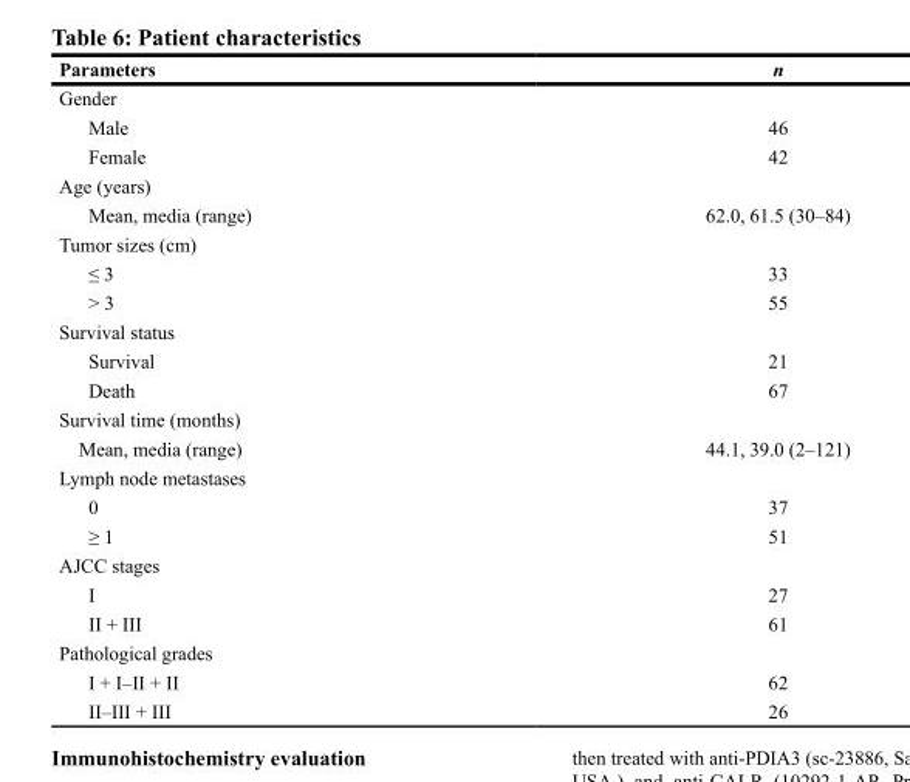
<table><thead><tr><td>Parameters</td><td>n</td></tr></thead><tbody><tr><td colspan="2">Gender</td></tr><tr><td>Male</td><td>46</td></tr><tr><td>Female</td><td>42</td></tr><tr><td colspan="2">Age (years)</td></tr><tr><td>Mean, media (range)</td><td>62.0, 61.5 (30–84)</td></tr><tr><td colspan="2">Tumor sizes (cm)</td></tr><tr><td>≤ 3</td><td>33</td></tr><tr><td>&gt; 3</td><td>55</td></tr><tr><td colspan="2">Survival status</td></tr><tr><td>Survival</td><td>21</td></tr><tr><td>Death</td><td>67</td></tr><tr><td colspan="2">Survival time (months)</td></tr><tr><td>Mean, media (range)</td><td>44.1, 39.0 (2–121)</td></tr><tr><td colspan="2">Lymph node metastases</td></tr><tr><td>0</td><td>37</td></tr><tr><td>≥ 1</td><td>51</td></tr><tr><td colspan="2">AJCC stages</td></tr><tr><td>I</td><td>27</td></tr><tr><td>II + III</td><td>61</td></tr><tr><td colspan="2">Pathological grades</td></tr><tr><td>I + I–II + II</td><td>62</td></tr><tr><td>II–III + III</td><td>26</td></tr></tbody></table>